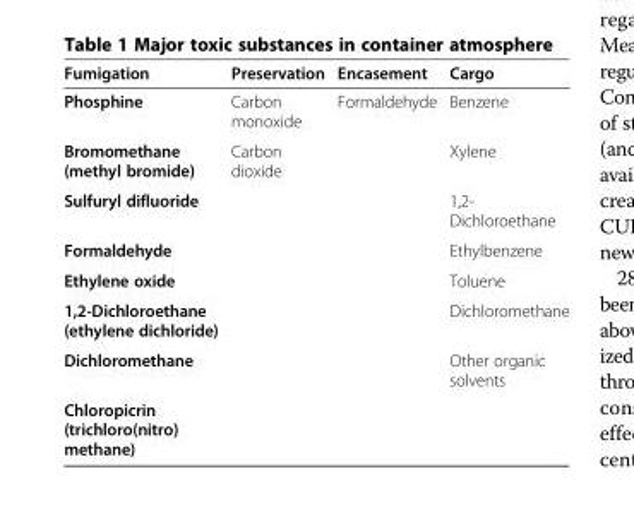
<table><thead><tr><td>Fumigation</td><td>Preservation</td><td>Encasement</td><td>Cargo</td></tr></thead><tbody><tr><td>Phosphine</td><td>Carbon monoxide</td><td>Formaldehyde</td><td>Benzene</td></tr><tr><td>Bromomethane (methyl bromide)</td><td>Carbon dioxide</td><td></td><td>Xylene</td></tr><tr><td>Sulfuryl difluoride</td><td></td><td></td><td>1,2- Dichloroethane</td></tr><tr><td>Formaldehyde</td><td></td><td></td><td>Ethylbenzene</td></tr><tr><td>Ethylene oxide</td><td></td><td></td><td>Toluene</td></tr><tr><td>1,2-Dichloroethane (ethylene dichloride)</td><td></td><td></td><td>Dichloromethane</td></tr><tr><td>Dichloromethane</td><td></td><td></td><td>Other organic solvents</td></tr><tr><td>Chloropicrin (trichloro(nitro) methane)</td><td></td><td></td><td></td></tr></tbody></table>